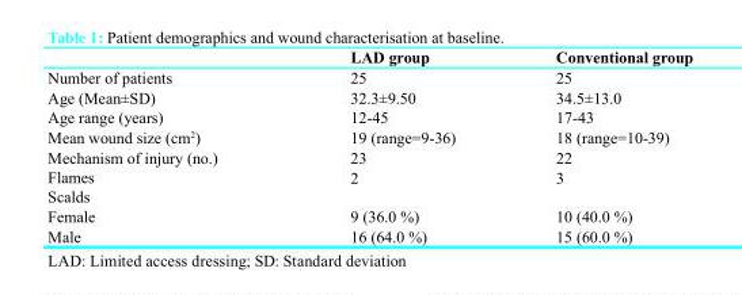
<table><thead><tr><td></td><td>LAD group</td><td>Conventional group</td></tr></thead><tbody><tr><td>Number of patients</td><td>25</td><td>25</td></tr><tr><td>Age (Mean±SD) Age range (years)</td><td>32.3±9.50 12-45</td><td>34.5±13.0 17-43</td></tr><tr><td>Mean wound size (cm<sup>2</sup>)</td><td>19 (range=9-36)</td><td>18 (range=10-39)</td></tr><tr><td rowspan="2">Mechanism of injury (no.) Flames Scalds</td><td>23</td><td>22</td></tr><tr><td>2</td><td>3</td></tr><tr><td>Female</td><td>9 (36.0 %)</td><td>10 (40.0 %)</td></tr><tr><td>Male</td><td>16 (64.0 %)</td><td>15 (60.0 %)</td></tr></tbody></table>